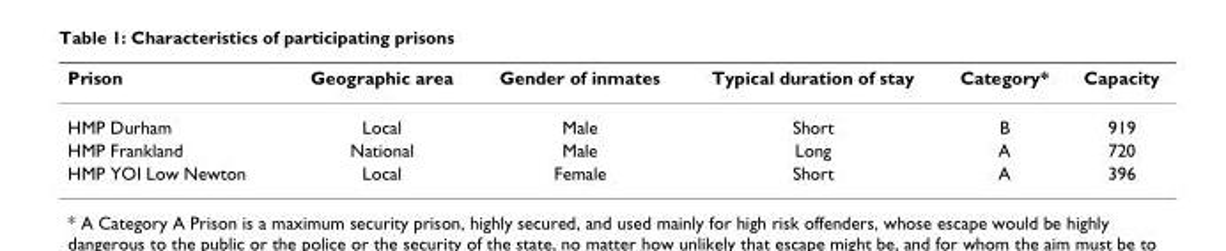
<table><thead><tr><td>Prison</td><td>Geographic area</td><td>Gender of inmates</td><td>Typical duration of stay</td><td>Category*</td><td>Capacity</td></tr></thead><tbody><tr><td>HMP Durham</td><td>Local</td><td>Male</td><td>Short</td><td>B</td><td>919</td></tr><tr><td>HMP Frankland</td><td>National</td><td>Male</td><td>Long</td><td>A</td><td>720</td></tr><tr><td>HMP YOI Low Newton</td><td>Local</td><td>Female</td><td>Short</td><td>A</td><td>396</td></tr></tbody></table>